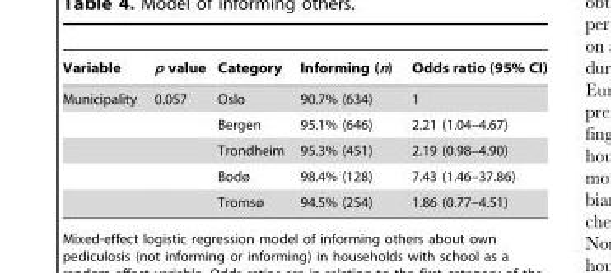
<table><thead><tr><td>Variable</td><td>p value</td><td>Category</td><td>Informing (n)</td><td>Odds ratio (95% CI)</td></tr></thead><tbody><tr><td rowspan="5">Municipality</td><td>0.057</td><td>Oslo</td><td>90.7% (634)</td><td>1</td></tr><tr><td></td><td>Bergen</td><td>95.1% (646)</td><td>2.21 (1.04–4.67)</td></tr><tr><td></td><td>Trondheim</td><td>95.3% (451)</td><td>2.19 (0.98–4.90)</td></tr><tr><td></td><td>Bodø</td><td>98.4% (128)</td><td>7.43 (1.46–37.86)</td></tr><tr><td></td><td>Tromsø</td><td>94.5% (254)</td><td>1.86 (0.77–4.51)</td></tr></tbody></table>